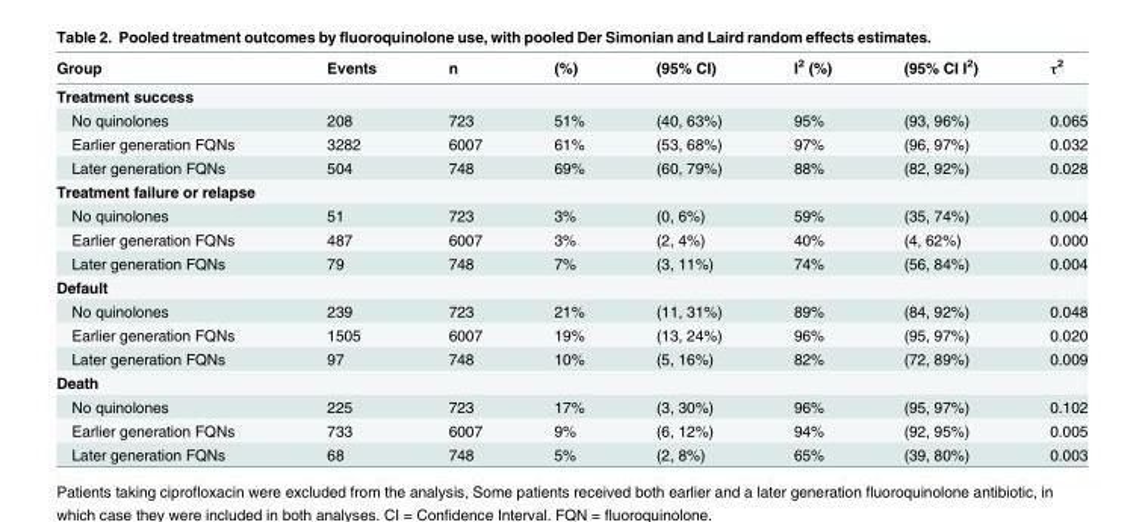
<table><thead><tr><td>Group</td><td>Events</td><td>n</td><td>(%)</td><td>(95% CI)</td><td>I<sup>2</sup> (%)</td><td>(95% CI I<sup>2</sup>)</td><td>τ<sup>2</sup></td></tr></thead><tbody><tr><td colspan="8">Treatment success</td></tr><tr><td>No quinolones</td><td>208</td><td>723</td><td>51%</td><td>(40, 63%)</td><td>95%</td><td>(93, 96%)</td><td>0.065</td></tr><tr><td>Earlier generation FQNs</td><td>3282</td><td>6007</td><td>61%</td><td>(53, 68%)</td><td>97%</td><td>(96, 97%)</td><td>0.032</td></tr><tr><td>Later generation FQNs</td><td>504</td><td>748</td><td>69%</td><td>(60, 79%)</td><td>88%</td><td>(82, 92%)</td><td>0.028</td></tr><tr><td colspan="8">Treatment failure or relapse</td></tr><tr><td>No quinolones</td><td>51</td><td>723</td><td>3%</td><td>(0, 6%)</td><td>59%</td><td>(35, 74%)</td><td>0.004</td></tr><tr><td>Earlier generation FQNs</td><td>487</td><td>6007</td><td>3%</td><td>(2, 4%)</td><td>40%</td><td>(4, 62%)</td><td>0.000</td></tr><tr><td>Later generation FQNs</td><td>79</td><td>748</td><td>7%</td><td>(3, 11%)</td><td>74%</td><td>(56, 84%)</td><td>0.004</td></tr><tr><td colspan="8">Default</td></tr><tr><td>No quinolones</td><td>239</td><td>723</td><td>21%</td><td>(11, 31%)</td><td>89%</td><td>(84, 92%)</td><td>0.048</td></tr><tr><td>Earlier generation FQNs</td><td>1505</td><td>6007</td><td>19%</td><td>(13, 24%)</td><td>96%</td><td>(95, 97%)</td><td>0.020</td></tr><tr><td>Later generation FQNs</td><td>97</td><td>748</td><td>10%</td><td>(5, 16%)</td><td>82%</td><td>(72, 89%)</td><td>0.009</td></tr><tr><td colspan="8">Death</td></tr><tr><td>No quinolones</td><td>225</td><td>723</td><td>17%</td><td>(3, 30%)</td><td>96%</td><td>(95, 97%)</td><td>0.102</td></tr><tr><td>Earlier generation FQNs</td><td>733</td><td>6007</td><td>9%</td><td>(6, 12%)</td><td>94%</td><td>(92, 95%)</td><td>0.005</td></tr><tr><td>Later generation FQNs</td><td>68</td><td>748</td><td>5%</td><td>(2, 8%)</td><td>65%</td><td>(39, 80%)</td><td>0.003</td></tr></tbody></table>